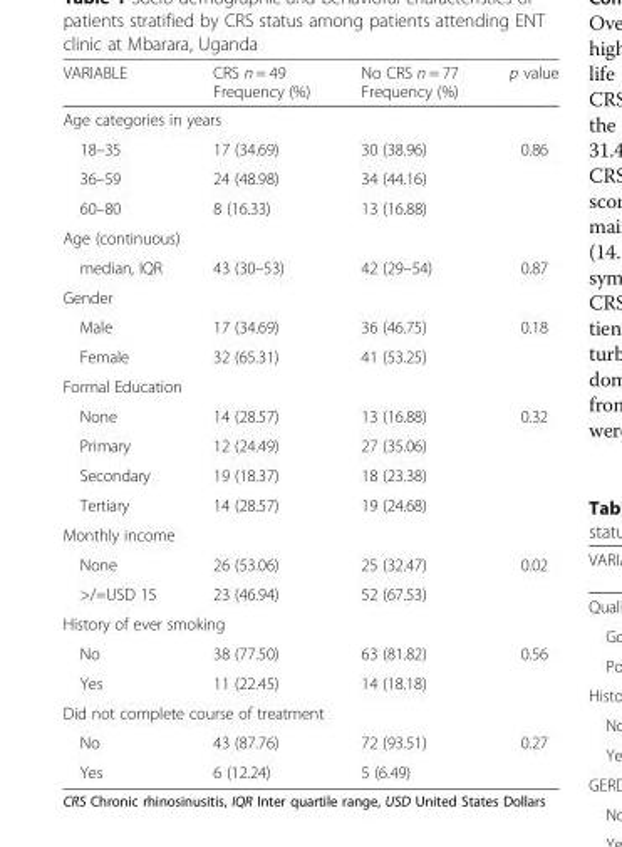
<table><thead><tr><td>VARIABLE</td><td>CRS n = 49 Frequency (%)</td><td>No CRS n = 77 Frequency (%)</td><td>p value</td></tr></thead><tbody><tr><td colspan="4">Age categories in years</td></tr><tr><td>18–35</td><td>17 (34.69)</td><td>30 (38.96)</td><td rowspan="3">0.86</td></tr><tr><td>36–59</td><td>24 (48.98)</td><td>34 (44.16)</td></tr><tr><td>60–80</td><td>8 (16.33)</td><td>13 (16.88)</td></tr><tr><td colspan="4">Age (continuous)</td></tr><tr><td>median, IQR</td><td>43 (30–53)</td><td>42 (29–54)</td><td>0.87</td></tr><tr><td colspan="4">Gender</td></tr><tr><td>Male</td><td>17 (34.69)</td><td>36 (46.75)</td><td rowspan="2">0.18</td></tr><tr><td>Female</td><td>32 (65.31)</td><td>41 (53.25)</td></tr><tr><td colspan="4">Formal Education</td></tr><tr><td>None</td><td>14 (28.57)</td><td>13 (16.88)</td><td rowspan="4">0.32</td></tr><tr><td>Primary</td><td>12 (24.49)</td><td>27 (35.06)</td></tr><tr><td>Secondary</td><td>19 (18.37)</td><td>18 (23.38)</td></tr><tr><td>Tertiary</td><td>14 (28.57)</td><td>19 (24.68)</td></tr><tr><td colspan="4">Monthly income</td></tr><tr><td>None</td><td>26 (53.06)</td><td>25 (32.47)</td><td rowspan="2">0.02</td></tr><tr><td>&gt;/=USD 15</td><td>23 (46.94)</td><td>52 (67.53)</td></tr><tr><td colspan="4">History of ever smoking</td></tr><tr><td>No</td><td>38 (77.50)</td><td>63 (81.82)</td><td rowspan="2">0.56</td></tr><tr><td>Yes</td><td>11 (22.45)</td><td>14 (18.18)</td></tr><tr><td colspan="4">Did not complete course of treatment</td></tr><tr><td>No</td><td>43 (87.76)</td><td>72 (93.51)</td><td rowspan="2">0.27</td></tr><tr><td>Yes</td><td>6 (12.24)</td><td>5 (6.49)</td></tr></tbody></table>